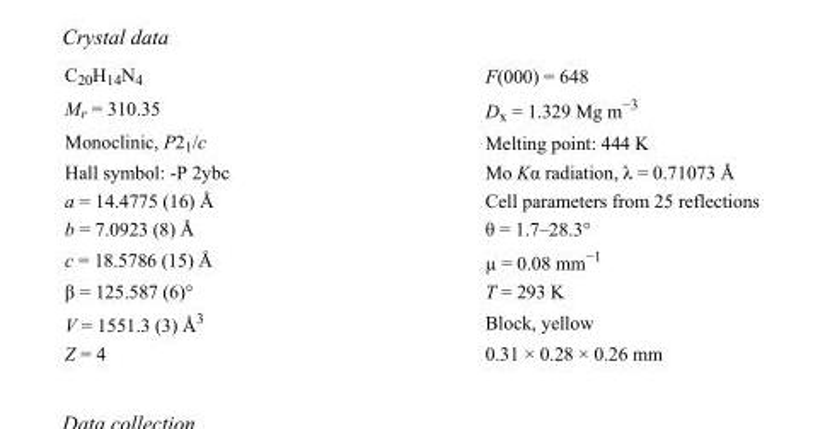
<table><tbody><tr><td>C<sub>20</sub>H<sub>14</sub>N<sub>4</sub></td><td>F(000) = 648</td></tr><tr><td>M<sub>r</sub> = 310.35</td><td>D<sub>x</sub> = 1.329 Mg m<sup>−3</sup></td></tr><tr><td>Monoclinic, P2<sub>1</sub>/c</td><td>Melting point: 444 K</td></tr><tr><td>Hall symbol: -P 2ybc</td><td>Mo Kα radiation, λ = 0.71073 Å</td></tr><tr><td>a = 14.4775 (16) Å</td><td>Cell parameters from 25 reflections</td></tr><tr><td>b = 7.0923 (8) Å</td><td>θ = 1.7–28.3°</td></tr><tr><td>c = 18.5786 (15) Å</td><td>µ = 0.08 mm<sup>−1</sup></td></tr><tr><td>β = 125.587 (6)°</td><td>T = 293 K</td></tr><tr><td>V = 1551.3 (3) Å<sup>3</sup></td><td>Block, yellow</td></tr><tr><td>Z = 4</td><td>0.31 × 0.28 × 0.26 mm</td></tr></tbody></table>